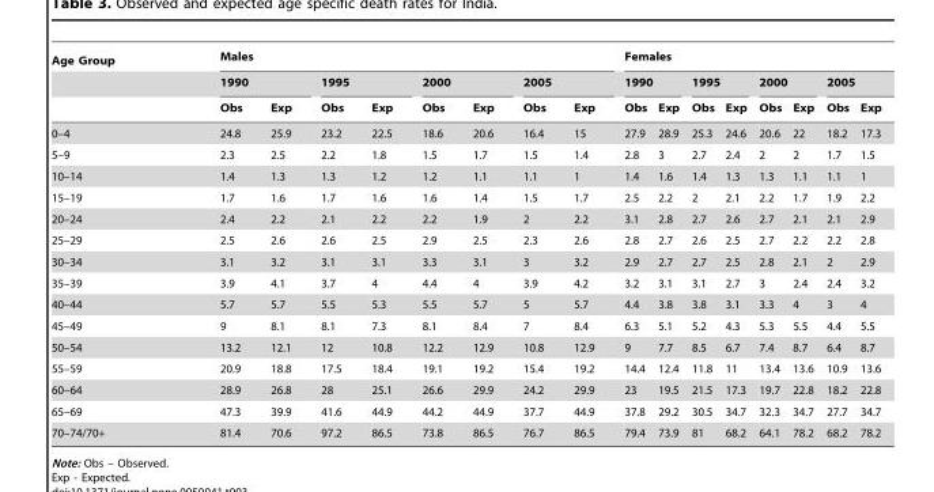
<table><thead><tr><td rowspan="3">Age Group</td><td colspan="8">Males</td><td colspan="8">Females</td></tr><tr><td colspan="2">1990</td><td colspan="2">1995</td><td colspan="2">2000</td><td colspan="2">2005</td><td colspan="2">1990</td><td colspan="2">1995</td><td colspan="2">2000</td><td colspan="2">2005</td></tr><tr><td>Obs</td><td>Exp</td><td>Obs</td><td>Exp</td><td>Obs</td><td>Exp</td><td>Obs</td><td>Exp</td><td>Obs</td><td>Exp</td><td>Obs</td><td>Exp</td><td>Obs</td><td>Exp</td><td>Obs</td><td>Exp</td></tr></thead><tbody><tr><td>0–4</td><td>24.8</td><td>25.9</td><td>23.2</td><td>22.5</td><td>18.6</td><td>20.6</td><td>16.4</td><td>15</td><td>27.9</td><td>28.9</td><td>25.3</td><td>24.6</td><td>20.6</td><td>22</td><td>18.2</td><td>17.3</td></tr><tr><td>5–9</td><td>2.3</td><td>2.5</td><td>2.2</td><td>1.8</td><td>1.5</td><td>1.7</td><td>1.5</td><td>1.4</td><td>2.8</td><td>3</td><td>2.7</td><td>2.4</td><td>2</td><td>2</td><td>1.7</td><td>1.5</td></tr><tr><td>10–14</td><td>1.4</td><td>1.3</td><td>1.3</td><td>1.2</td><td>1.2</td><td>1.1</td><td>1.1</td><td>1</td><td>1.4</td><td>1.6</td><td>1.4</td><td>1.3</td><td>1.3</td><td>1.1</td><td>1.1</td><td>1</td></tr><tr><td>15–19</td><td>1.7</td><td>1.6</td><td>1.7</td><td>1.6</td><td>1.6</td><td>1.4</td><td>1.5</td><td>1.7</td><td>2.5</td><td>2.2</td><td>2</td><td>2.1</td><td>2.2</td><td>1.7</td><td>1.9</td><td>2.2</td></tr><tr><td>20–24</td><td>2.4</td><td>2.2</td><td>2.1</td><td>2.2</td><td>2.2</td><td>1.9</td><td>2</td><td>2.2</td><td>3.1</td><td>2.8</td><td>2.7</td><td>2.6</td><td>2.7</td><td>2.1</td><td>2.1</td><td>2.9</td></tr><tr><td>25–29</td><td>2.5</td><td>2.6</td><td>2.6</td><td>2.5</td><td>2.9</td><td>2.5</td><td>2.3</td><td>2.6</td><td>2.8</td><td>2.7</td><td>2.6</td><td>2.5</td><td>2.7</td><td>2.2</td><td>2.2</td><td>2.8</td></tr><tr><td>30–34</td><td>3.1</td><td>3.2</td><td>3.1</td><td>3.1</td><td>3.3</td><td>3.1</td><td>3</td><td>3.2</td><td>2.9</td><td>2.7</td><td>2.7</td><td>2.5</td><td>2.8</td><td>2.1</td><td>2</td><td>2.9</td></tr><tr><td>35–39</td><td>3.9</td><td>4.1</td><td>3.7</td><td>4</td><td>4.4</td><td>4</td><td>3.9</td><td>4.2</td><td>3.2</td><td>3.1</td><td>3.1</td><td>2.7</td><td>3</td><td>2.4</td><td>2.4</td><td>3.2</td></tr><tr><td>40–44</td><td>5.7</td><td>5.7</td><td>5.5</td><td>5.3</td><td>5.5</td><td>5.7</td><td>5</td><td>5.7</td><td>4.4</td><td>3.8</td><td>3.8</td><td>3.1</td><td>3.3</td><td>4</td><td>3</td><td>4</td></tr><tr><td>45–49</td><td>9</td><td>8.1</td><td>8.1</td><td>7.3</td><td>8.1</td><td>8.4</td><td>7</td><td>8.4</td><td>6.3</td><td>5.1</td><td>5.2</td><td>4.3</td><td>5.3</td><td>5.5</td><td>4.4</td><td>5.5</td></tr><tr><td>50–54</td><td>13.2</td><td>12.1</td><td>12</td><td>10.8</td><td>12.2</td><td>12.9</td><td>10.8</td><td>12.9</td><td>9</td><td>7.7</td><td>8.5</td><td>6.7</td><td>7.4</td><td>8.7</td><td>6.4</td><td>8.7</td></tr><tr><td>55–59</td><td>20.9</td><td>18.8</td><td>17.5</td><td>18.4</td><td>19.1</td><td>19.2</td><td>15.4</td><td>19.2</td><td>14.4</td><td>12.4</td><td>11.8</td><td>11</td><td>13.4</td><td>13.6</td><td>10.9</td><td>13.6</td></tr><tr><td>60–64</td><td>28.9</td><td>26.8</td><td>28</td><td>25.1</td><td>26.6</td><td>29.9</td><td>24.2</td><td>29.9</td><td>23</td><td>19.5</td><td>21.5</td><td>17.3</td><td>19.7</td><td>22.8</td><td>18.2</td><td>22.8</td></tr><tr><td>65–69</td><td>47.3</td><td>39.9</td><td>41.6</td><td>44.9</td><td>44.2</td><td>44.9</td><td>37.7</td><td>44.9</td><td>37.8</td><td>29.2</td><td>30.5</td><td>34.7</td><td>32.3</td><td>34.7</td><td>27.7</td><td>34.7</td></tr><tr><td>70–74/70+</td><td>81.4</td><td>70.6</td><td>97.2</td><td>86.5</td><td>73.8</td><td>86.5</td><td>76.7</td><td>86.5</td><td>79.4</td><td>73.9</td><td>81</td><td>68.2</td><td>64.1</td><td>78.2</td><td>68.2</td><td>78.2</td></tr></tbody></table>